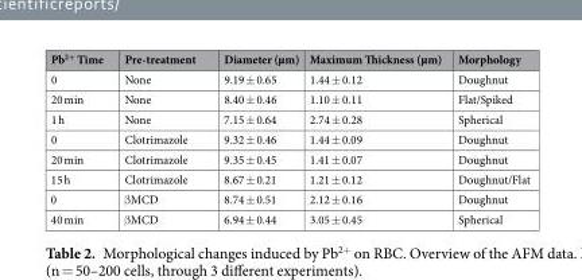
<table><thead><tr><td>Pb<sup>2+</sup> Time</td><td>Pre-treatment</td><td>Diameter (µm)</td><td>Maximum Thickness (µm)</td><td>Morphology</td></tr></thead><tbody><tr><td>0</td><td>None</td><td>9.19 ± 0.65</td><td>1.44 ± 0.12</td><td>Doughnut</td></tr><tr><td>20 min</td><td>None</td><td>8.40 ± 0.46</td><td>1.10 ± 0.11</td><td>Flat/Spiked</td></tr><tr><td>1 h</td><td>None</td><td>7.15 ± 0.64</td><td>2.74 ± 0.28</td><td>Spherical</td></tr><tr><td>0</td><td>Clotrimazole</td><td>9.32 ± 0.46</td><td>1.44 ± 0.09</td><td>Doughnut</td></tr><tr><td>20 min</td><td>Clotrimazole</td><td>9.35 ± 0.45</td><td>1.41 ± 0.07</td><td>Doughnut</td></tr><tr><td>15 h</td><td>Clotrimazole</td><td>8.67 ± 0.21</td><td>1.21 ± 0.12</td><td>Doughnut/Flat</td></tr><tr><td>0</td><td>βMCD</td><td>8.74 ± 0.51</td><td>2.12 ± 0.16</td><td>Doughnut</td></tr><tr><td>40 min</td><td>βMCD</td><td>6.94 ± 0.44</td><td>3.05 ± 0.45</td><td>Spherical</td></tr></tbody></table>